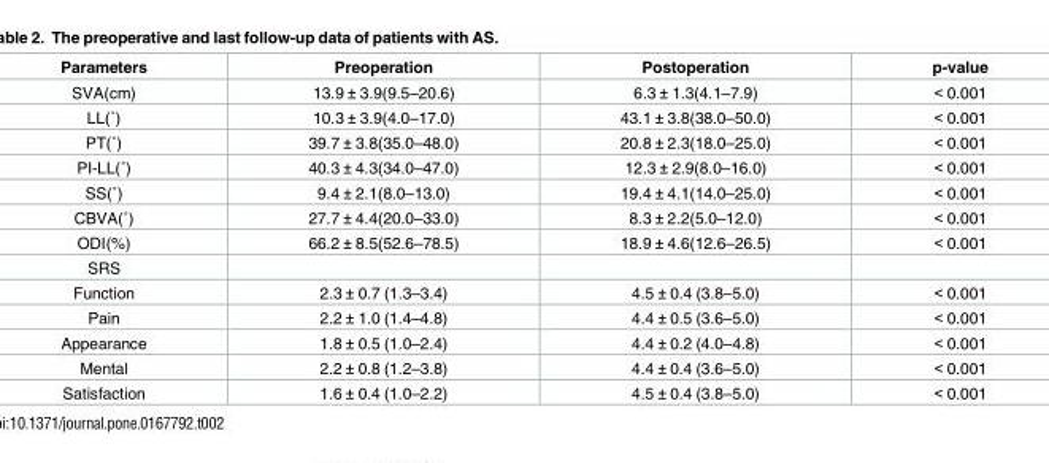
<table><thead><tr><td>Parameters</td><td>Preoperation</td><td>Postoperation</td><td>p-value</td></tr></thead><tbody><tr><td>SVA(cm)</td><td>13.9 ± 3.9(9.5–20.6)</td><td>6.3 ± 1.3(4.1–7.9)</td><td>&lt; 0.001</td></tr><tr><td>LL(˚)</td><td>10.3 ± 3.9(4.0–17.0)</td><td>43.1 ± 3.8(38.0–50.0)</td><td>&lt; 0.001</td></tr><tr><td>PT(˚)</td><td>39.7 ± 3.8(35.0–48.0)</td><td>20.8 ± 2.3(18.0–25.0)</td><td>&lt; 0.001</td></tr><tr><td>PI-LL(˚)</td><td>40.3 ± 4.3(34.0–47.0)</td><td>12.3 ± 2.9(8.0–16.0)</td><td>&lt; 0.001</td></tr><tr><td>SS(˚)</td><td>9.4 ± 2.1(8.0–13.0)</td><td>19.4 ± 4.1(14.0–25.0)</td><td>&lt; 0.001</td></tr><tr><td>CBVA(˚)</td><td>27.7 ± 4.4(20.0–33.0)</td><td>8.3 ± 2.2(5.0–12.0)</td><td>&lt; 0.001</td></tr><tr><td>ODI(%)</td><td>66.2 ± 8.5(52.6–78.5)</td><td>18.9 ± 4.6(12.6–26.5)</td><td>&lt; 0.001</td></tr><tr><td colspan="4">SRS</td></tr><tr><td>Function</td><td>2.3 ± 0.7 (1.3–3.4)</td><td>4.5 ± 0.4 (3.8–5.0)</td><td>&lt; 0.001</td></tr><tr><td>Pain</td><td>2.2 ± 1.0 (1.4–4.8)</td><td>4.4 ± 0.5 (3.6–5.0)</td><td>&lt; 0.001</td></tr><tr><td>Appearance</td><td>1.8 ± 0.5 (1.0–2.4)</td><td>4.4 ± 0.2 (4.0–4.8)</td><td>&lt; 0.001</td></tr><tr><td>Mental</td><td>2.2 ± 0.8 (1.2–3.8)</td><td>4.4 ± 0.4 (3.6–5.0)</td><td>&lt; 0.001</td></tr><tr><td>Satisfaction</td><td>1.6 ± 0.4 (1.0–2.2)</td><td>4.5 ± 0.4 (3.8–5.0)</td><td>&lt; 0.001</td></tr></tbody></table>